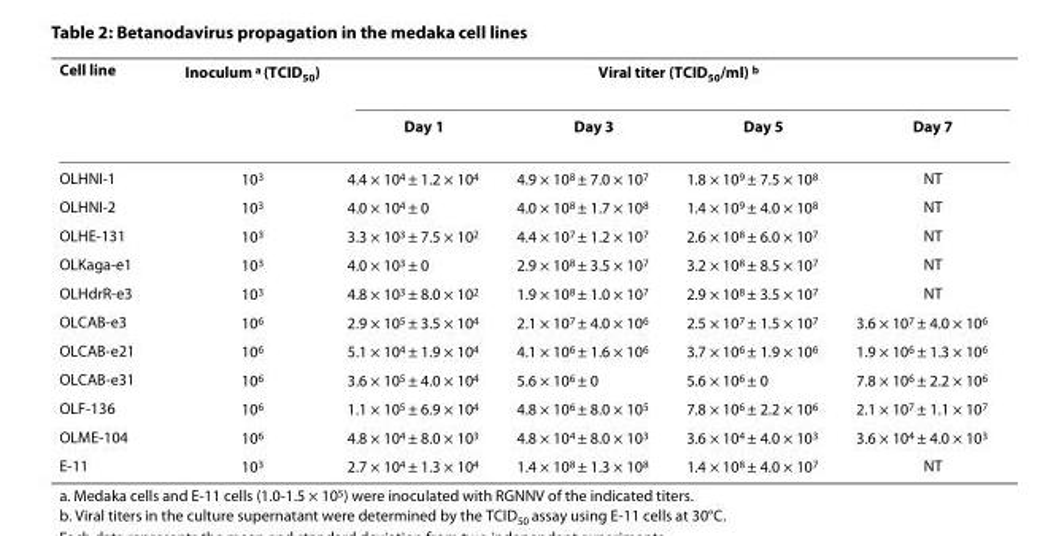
<table><thead><tr><td rowspan="2">Cell line</td><td rowspan="2">Inoculum <sup>a</sup> (TCID<sub>50</sub>)</td><td colspan="4">Viral titer (TCID<sub>50</sub>/ml) <sup>b</sup></td></tr><tr><td>Day 1</td><td>Day 3</td><td>Day 5</td><td>Day 7</td></tr></thead><tbody><tr><td>OLHNI-1</td><td>10<sup>3</sup></td><td>4.4 × 10<sup>4</sup> ± 1.2 × 10<sup>4</sup></td><td>4.9 × 10<sup>8</sup> ± 7.0 × 10<sup>7</sup></td><td>1.8 × 10<sup>9</sup> ± 7.5 × 10<sup>8</sup></td><td>NT</td></tr><tr><td>OLHNI-2</td><td>10<sup>3</sup></td><td>4.0 × 10<sup>4</sup> ± 0</td><td>4.0 × 10<sup>8</sup> ± 1.7 × 10<sup>8</sup></td><td>1.4 × 10<sup>9</sup> ± 4.0 × 10<sup>8</sup></td><td>NT</td></tr><tr><td>OLHE-131</td><td>10<sup>3</sup></td><td>3.3 × 10<sup>3</sup> ± 7.5 × 10<sup>2</sup></td><td>4.4 × 10<sup>7</sup> ± 1.2 × 10<sup>7</sup></td><td>2.6 × 10<sup>8</sup> ± 6.0 × 10<sup>7</sup></td><td>NT</td></tr><tr><td>OLKaga-e1</td><td>10<sup>3</sup></td><td>4.0 × 10<sup>3</sup> ± 0</td><td>2.9 × 10<sup>8</sup> ± 3.5 × 10<sup>7</sup></td><td>3.2 × 10<sup>8</sup> ± 8.5 × 10<sup>7</sup></td><td>NT</td></tr><tr><td>OLHdrR-e3</td><td>10<sup>3</sup></td><td>4.8 × 10<sup>3</sup> ± 8.0 × 10<sup>2</sup></td><td>1.9 × 10<sup>8</sup> ± 1.0 × 10<sup>7</sup></td><td>2.9 × 10<sup>8</sup> ± 3.5 × 10<sup>7</sup></td><td>NT</td></tr><tr><td>OLCAB-e3</td><td>10<sup>6</sup></td><td>2.9 × 10<sup>5</sup> ± 3.5 × 10<sup>4</sup></td><td>2.1 × 10<sup>7</sup> ± 4.0 × 10<sup>6</sup></td><td>2.5 × 10<sup>7</sup> ± 1.5 × 10<sup>7</sup></td><td>3.6 × 10<sup>7</sup> ± 4.0 × 10<sup>6</sup></td></tr><tr><td>OLCAB-e21</td><td>10<sup>6</sup></td><td>5.1 × 10<sup>4</sup> ± 1.9 × 10<sup>4</sup></td><td>4.1 × 10<sup>6</sup> ± 1.6 × 10<sup>6</sup></td><td>3.7 × 10<sup>6</sup> ± 1.9 × 10<sup>6</sup></td><td>1.9 × 10<sup>6</sup> ± 1.3 × 10<sup>6</sup></td></tr><tr><td>OLCAB-e31</td><td>10<sup>6</sup></td><td>3.6 × 10<sup>5</sup> ± 4.0 × 10<sup>4</sup></td><td>5.6 × 10<sup>6</sup> ± 0</td><td>5.6 × 10<sup>6</sup> ± 0</td><td>7.8 × 10<sup>6</sup> ± 2.2 × 10<sup>6</sup></td></tr><tr><td>OLF-136</td><td>10<sup>6</sup></td><td>1.1 × 10<sup>5</sup> ± 6.9 × 10<sup>4</sup></td><td>4.8 × 10<sup>6</sup> ± 8.0 × 10<sup>5</sup></td><td>7.8 × 10<sup>6</sup> ± 2.2 × 10<sup>6</sup></td><td>2.1 × 10<sup>7</sup> ± 1.1 × 10<sup>7</sup></td></tr><tr><td>OLME-104</td><td>10<sup>6</sup></td><td>4.8 × 10<sup>4</sup> ± 8.0 × 10<sup>3</sup></td><td>4.8 × 10<sup>4</sup> ± 8.0 × 10<sup>3</sup></td><td>3.6 × 10<sup>4</sup> ± 4.0 × 10<sup>3</sup></td><td>3.6 × 10<sup>4</sup> ± 4.0 × 10<sup>3</sup></td></tr><tr><td>E-11</td><td>10<sup>3</sup></td><td>2.7 × 10<sup>4</sup> ± 1.3 × 10<sup>4</sup></td><td>1.4 × 10<sup>8</sup> ± 1.3 × 10<sup>8</sup></td><td>1.4 × 10<sup>8</sup> ± 4.0 × 10<sup>7</sup></td><td>NT</td></tr></tbody></table>